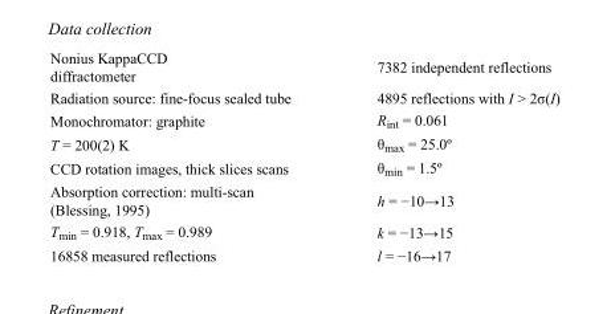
<table><tbody><tr><td>Nonius KappaCCD diffractometer</td><td>7382 independent reflections</td></tr><tr><td>Radiation source: fine-focus sealed tube</td><td>4895 reflections with I &gt; 2σ(I)</td></tr><tr><td>Monochromator: graphite</td><td>R<sub>int</sub> = 0.061</td></tr><tr><td>T = 200(2) K</td><td>θ<sub>max</sub> = 25.0º</td></tr><tr><td>CCD rotation images, thick slices scans</td><td>θ<sub>min</sub> = 1.5º</td></tr><tr><td>Absorption correction: multi-scan (Blessing, 1995)</td><td>h = −10→13</td></tr><tr><td>T<sub>min</sub> = 0.918, T<sub>max</sub> = 0.989</td><td>k = −13→15</td></tr><tr><td>16858 measured reflections</td><td>l = −16→17</td></tr></tbody></table>